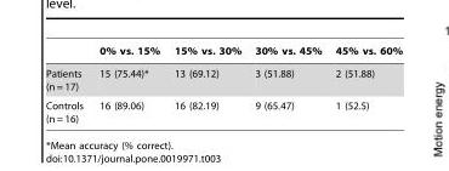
<table><thead><tr><td></td><td>0% vs. 15%</td><td>15% vs. 30%</td><td>30% vs. 45%</td><td>45% vs. 60%</td></tr></thead><tbody><tr><td>Patients (n = 17)</td><td>15 (75.44)*</td><td>13 (69.12)</td><td>3 (51.88)</td><td>2 (51.88)</td></tr><tr><td>Controls (n = 16)</td><td>16 (89.06)</td><td>16 (82.19)</td><td>9 (65.47)</td><td>1 (52.5)</td></tr></tbody></table>